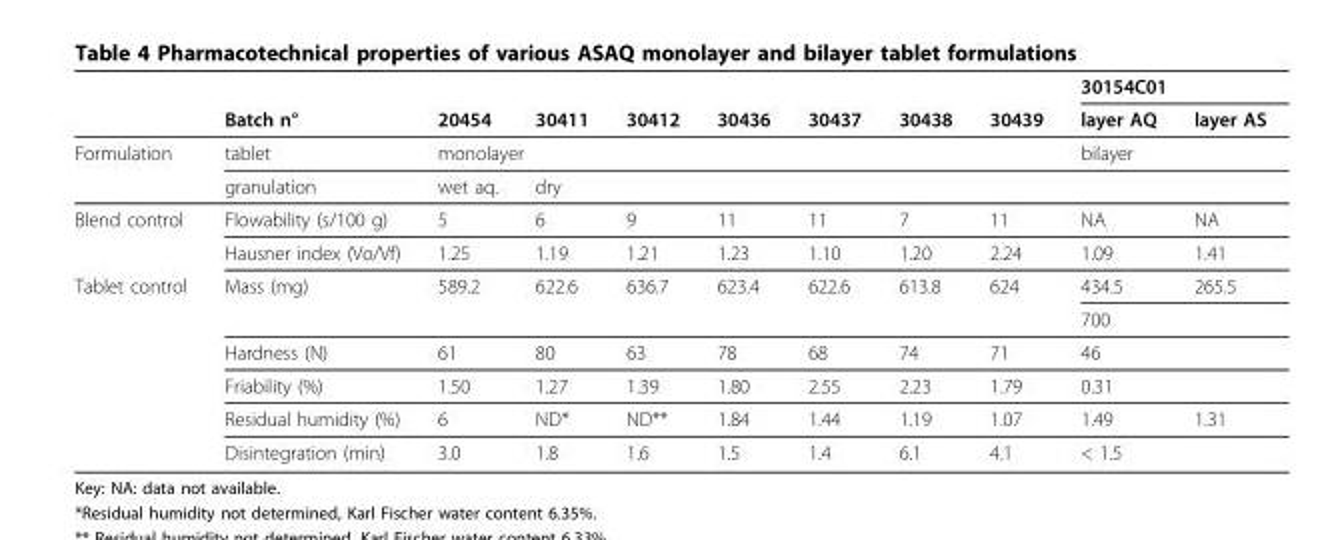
<table><thead><tr><td rowspan="2"></td><td rowspan="2">Batch n°</td><td rowspan="2">20454</td><td rowspan="2">30411</td><td rowspan="2">30412</td><td rowspan="2">30436</td><td rowspan="2">30437</td><td rowspan="2">30438</td><td rowspan="2">30439</td><td colspan="2">30154C01</td></tr><tr><td>layer AQ</td><td>layer AS</td></tr></thead><tbody><tr><td rowspan="2">Formulation</td><td>tablet</td><td colspan="7">monolayer</td><td colspan="2">bilayer</td></tr><tr><td>granulation</td><td>wet aq.</td><td colspan="8">dry</td></tr><tr><td rowspan="2">Blend control</td><td>Flowability (s/100 g)</td><td>5</td><td>6</td><td>9</td><td>11</td><td>11</td><td>7</td><td>11</td><td>NA</td><td>NA</td></tr><tr><td>Hausner index (Vo/Vf)</td><td>1.25</td><td>1.19</td><td>1.21</td><td>1.23</td><td>1.10</td><td>1.20</td><td>2.24</td><td>1.09</td><td>1.41</td></tr><tr><td rowspan="6">Tablet control</td><td>Mass (mg)</td><td>589.2</td><td>622.6</td><td>636.7</td><td>623.4</td><td>622.6</td><td>613.8</td><td>624</td><td>434.5</td><td>265.5</td></tr><tr><td></td><td></td><td></td><td></td><td></td><td></td><td></td><td></td><td colspan="2">700</td></tr><tr><td>Hardness (N)</td><td>61</td><td>80</td><td>63</td><td>78</td><td>68</td><td>74</td><td>71</td><td colspan="2">46</td></tr><tr><td>Friability (%)</td><td>1.50</td><td>1.27</td><td>1.39</td><td>1.80</td><td>2.55</td><td>2.23</td><td>1.79</td><td colspan="2">0.31</td></tr><tr><td>Residual humidity (%)</td><td>6</td><td>ND*</td><td>ND**</td><td>1.84</td><td>1.44</td><td>1.19</td><td>1.07</td><td>1.49</td><td>1.31</td></tr><tr><td>Disintegration (min)</td><td>3.0</td><td>1.8</td><td>1.6</td><td>1.5</td><td>1.4</td><td>6.1</td><td>4.1</td><td colspan="2">&lt; 1.5</td></tr></tbody></table>